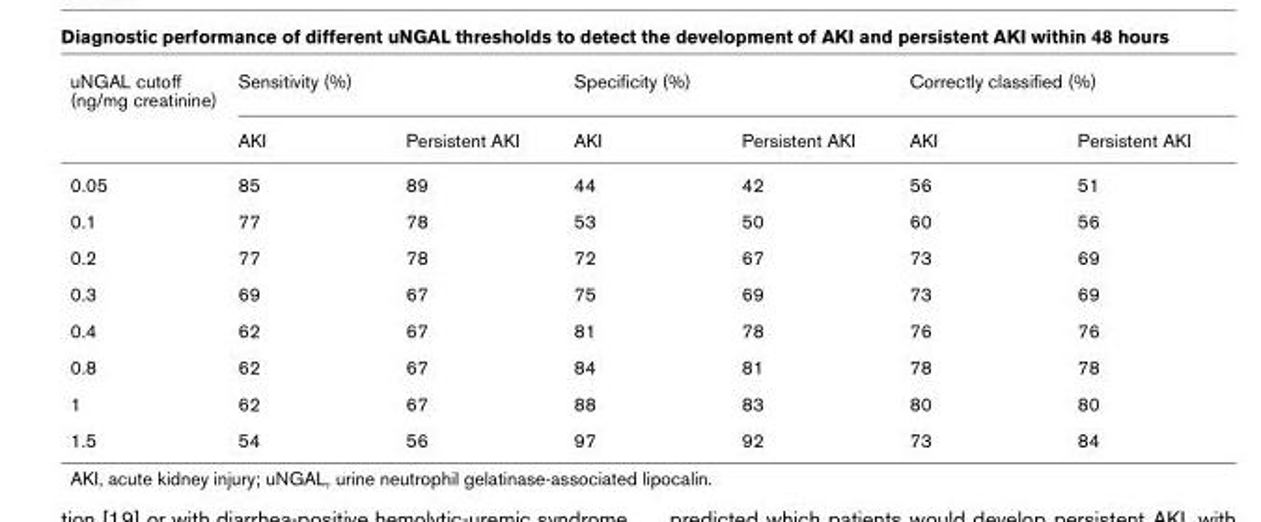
<table><thead><tr><td rowspan="2">uNGAL cutoff (ng/mg creatinine)</td><td colspan="2">Sensitivity (%)</td><td colspan="2">Specificity (%)</td><td colspan="2">Correctly classified (%)</td></tr><tr><td>AKI</td><td>Persistent AKI</td><td>AKI</td><td>Persistent AKI</td><td>AKI</td><td>Persistent AKI</td></tr></thead><tbody><tr><td>0.05</td><td>85</td><td>89</td><td>44</td><td>42</td><td>56</td><td>51</td></tr><tr><td>0.1</td><td>77</td><td>78</td><td>53</td><td>50</td><td>60</td><td>56</td></tr><tr><td>0.2</td><td>77</td><td>78</td><td>72</td><td>67</td><td>73</td><td>69</td></tr><tr><td>0.3</td><td>69</td><td>67</td><td>75</td><td>69</td><td>73</td><td>69</td></tr><tr><td>0.4</td><td>62</td><td>67</td><td>81</td><td>78</td><td>76</td><td>76</td></tr><tr><td>0.8</td><td>62</td><td>67</td><td>84</td><td>81</td><td>78</td><td>78</td></tr><tr><td>1</td><td>62</td><td>67</td><td>88</td><td>83</td><td>80</td><td>80</td></tr><tr><td>1.5</td><td>54</td><td>56</td><td>97</td><td>92</td><td>73</td><td>84</td></tr></tbody></table>